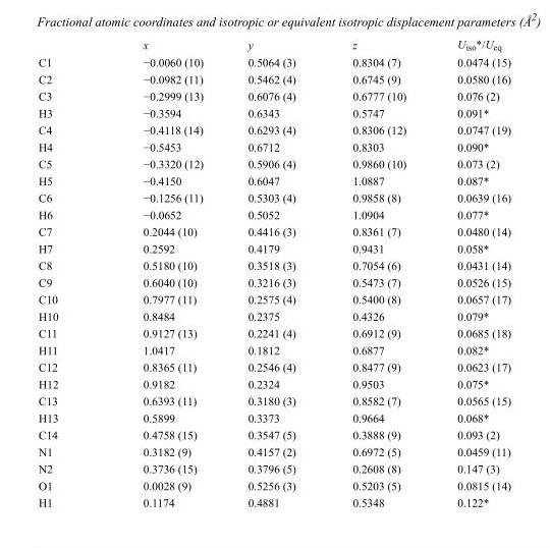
<table><thead><tr><td></td><td>x</td><td>y</td><td>z</td><td>U<sub>iso</sub>*/U<sub>eq</sub></td></tr></thead><tbody><tr><td>C1</td><td>−0.0060 (10)</td><td>0.5064 (3)</td><td>0.8304 (7)</td><td>0.0474 (15)</td></tr><tr><td>C2</td><td>−0.0982 (11)</td><td>0.5462 (4)</td><td>0.6745 (9)</td><td>0.0580 (16)</td></tr><tr><td>C3</td><td>−0.2999 (13)</td><td>0.6076 (4)</td><td>0.6777 (10)</td><td>0.076 (2)</td></tr><tr><td>H3</td><td>−0.3594</td><td>0.6343</td><td>0.5747</td><td>0.091*</td></tr><tr><td>C4</td><td>−0.4118 (14)</td><td>0.6293 (4)</td><td>0.8306 (12)</td><td>0.0747 (19)</td></tr><tr><td>H4</td><td>−0.5453</td><td>0.6712</td><td>0.8303</td><td>0.090*</td></tr><tr><td>C5</td><td>−0.3320 (12)</td><td>0.5906 (4)</td><td>0.9860 (10)</td><td>0.073 (2)</td></tr><tr><td>H5</td><td>−0.4150</td><td>0.6047</td><td>1.0887</td><td>0.087*</td></tr><tr><td>C6</td><td>−0.1256 (11)</td><td>0.5303 (4)</td><td>0.9858 (8)</td><td>0.0639 (16)</td></tr><tr><td>H6</td><td>−0.0652</td><td>0.5052</td><td>1.0904</td><td>0.077*</td></tr><tr><td>C7</td><td>0.2044 (10)</td><td>0.4416 (3)</td><td>0.8361 (7)</td><td>0.0480 (14)</td></tr><tr><td>H7</td><td>0.2592</td><td>0.4179</td><td>0.9431</td><td>0.058*</td></tr><tr><td>C8</td><td>0.5180 (10)</td><td>0.3518 (3)</td><td>0.7054 (6)</td><td>0.0431 (14)</td></tr><tr><td>C9</td><td>0.6040 (10)</td><td>0.3216 (3)</td><td>0.5473 (7)</td><td>0.0526 (15)</td></tr><tr><td>C10</td><td>0.7977 (11)</td><td>0.2575 (4)</td><td>0.5400 (8)</td><td>0.0657 (17)</td></tr><tr><td>H10</td><td>0.8484</td><td>0.2375</td><td>0.4326</td><td>0.079*</td></tr><tr><td>C11</td><td>0.9127 (13)</td><td>0.2241 (4)</td><td>0.6912 (9)</td><td>0.0685 (18)</td></tr><tr><td>H11</td><td>1.0417</td><td>0.1812</td><td>0.6877</td><td>0.082*</td></tr><tr><td>C12</td><td>0.8365 (11)</td><td>0.2546 (4)</td><td>0.8477 (9)</td><td>0.0623 (17)</td></tr><tr><td>H12</td><td>0.9182</td><td>0.2324</td><td>0.9503</td><td>0.075*</td></tr><tr><td>C13</td><td>0.6393 (11)</td><td>0.3180 (3)</td><td>0.8582 (7)</td><td>0.0565 (15)</td></tr><tr><td>H13</td><td>0.5899</td><td>0.3373</td><td>0.9664</td><td>0.068*</td></tr><tr><td>C14</td><td>0.4758 (15)</td><td>0.3547 (5)</td><td>0.3888 (9)</td><td>0.093 (2)</td></tr><tr><td>N1</td><td>0.3182 (9)</td><td>0.4157 (2)</td><td>0.6972 (5)</td><td>0.0459 (11)</td></tr><tr><td>N2</td><td>0.3736 (15)</td><td>0.3796 (5)</td><td>0.2608 (8)</td><td>0.147 (3)</td></tr><tr><td>O1</td><td>0.0028 (9)</td><td>0.5256 (3)</td><td>0.5203 (5)</td><td>0.0815 (14)</td></tr><tr><td>H1</td><td>0.1174</td><td>0.4881</td><td>0.5348</td><td>0.122*</td></tr></tbody></table>